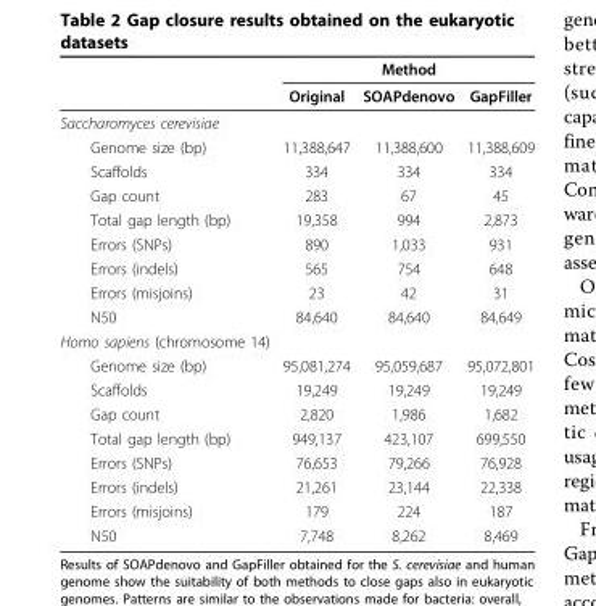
<table><thead><tr><td rowspan="2"></td><td colspan="3">Method</td></tr><tr><td>Original</td><td>SOAPdenovo</td><td>GapFiller</td></tr></thead><tbody><tr><td colspan="4">Saccharomyces cerevisiae</td></tr><tr><td>Genome size (bp)</td><td>11,388,647</td><td>11,388,600</td><td>11,388,609</td></tr><tr><td>Scaffolds</td><td>334</td><td>334</td><td>334</td></tr><tr><td>Gap count</td><td>283</td><td>67</td><td>45</td></tr><tr><td>Total gap length (bp)</td><td>19,358</td><td>994</td><td>2,873</td></tr><tr><td>Errors (SNPs)</td><td>890</td><td>1,033</td><td>931</td></tr><tr><td>Errors (indels)</td><td>565</td><td>754</td><td>648</td></tr><tr><td>Errors (misjoins)</td><td>23</td><td>42</td><td>31</td></tr><tr><td>N50</td><td>84,640</td><td>84,640</td><td>84,649</td></tr><tr><td colspan="4">Homo sapiens (chromosome 14)</td></tr><tr><td>Genome size (bp)</td><td>95,081,274</td><td>95,059,687</td><td>95,072,801</td></tr><tr><td>Scaffolds</td><td>19,249</td><td>19,249</td><td>19,249</td></tr><tr><td>Gap count</td><td>2,820</td><td>1,986</td><td>1,682</td></tr><tr><td>Total gap length (bp)</td><td>949,137</td><td>423,107</td><td>699,550</td></tr><tr><td>Errors (SNPs)</td><td>76,653</td><td>79,266</td><td>76,928</td></tr><tr><td>Errors (indels)</td><td>21,261</td><td>23,144</td><td>22,338</td></tr><tr><td>Errors (misjoins)</td><td>179</td><td>224</td><td>187</td></tr><tr><td>N50</td><td>7,748</td><td>8,262</td><td>8,469</td></tr></tbody></table>